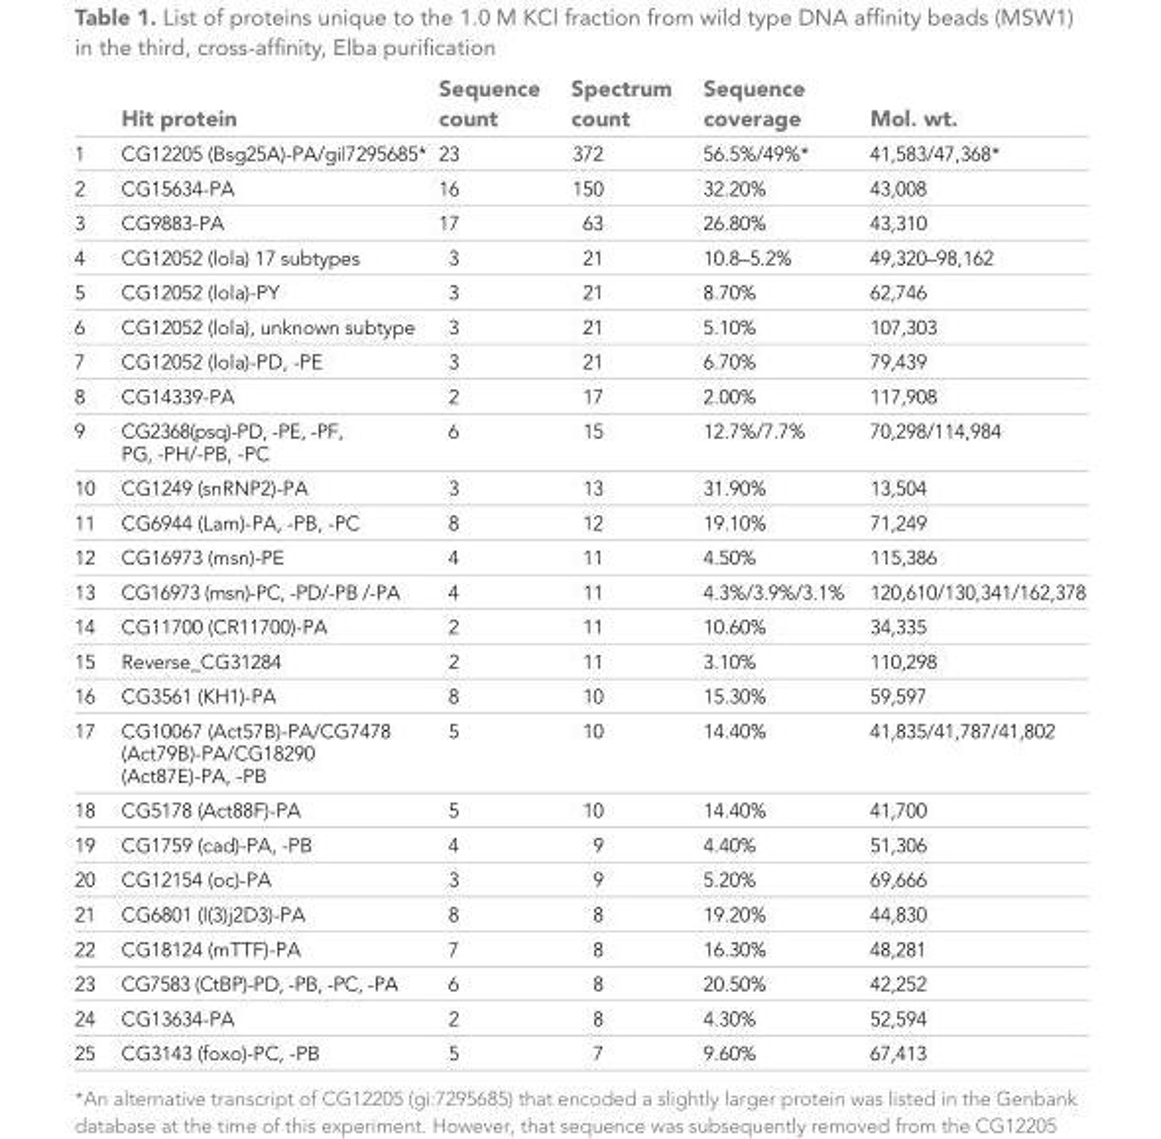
<table><thead><tr><td></td><td>Hit protein</td><td>Sequence count</td><td>Spectrum count</td><td>Sequence coverage</td><td>Mol. wt.</td></tr></thead><tbody><tr><td>1</td><td>CG12205 (Bsg25A)-PA/gi|7295685*</td><td>23</td><td>372</td><td>56.5%/49%*</td><td>41,583/47,368*</td></tr><tr><td>2</td><td>CG15634-PA</td><td>16</td><td>150</td><td>32.20%</td><td>43,008</td></tr><tr><td>3</td><td>CG9883-PA</td><td>17</td><td>63</td><td>26.80%</td><td>43,310</td></tr><tr><td>4</td><td>CG12052 (lola) 17 subtypes</td><td>3</td><td>21</td><td>10.8–5.2%</td><td>49,320–98,162</td></tr><tr><td>5</td><td>CG12052 (lola)-PY</td><td>3</td><td>21</td><td>8.70%</td><td>62,746</td></tr><tr><td>6</td><td>CG12052 (lola), unknown subtype</td><td>3</td><td>21</td><td>5.10%</td><td>107,303</td></tr><tr><td>7</td><td>CG12052 (lola)-PD, -PE</td><td>3</td><td>21</td><td>6.70%</td><td>79,439</td></tr><tr><td>8</td><td>CG14339-PA</td><td>2</td><td>17</td><td>2.00%</td><td>117,908</td></tr><tr><td>9</td><td>CG2368(psq)-PD, -PE, -PF, PG, -PH/-PB, -PC</td><td>6</td><td>15</td><td>12.7%/7.7%</td><td>70,298/114,984</td></tr><tr><td>10</td><td>CG1249 (snRNP2)-PA</td><td>3</td><td>13</td><td>31.90%</td><td>13,504</td></tr><tr><td>11</td><td>CG6944 (Lam)-PA, -PB, -PC</td><td>8</td><td>12</td><td>19.10%</td><td>71,249</td></tr><tr><td>12</td><td>CG16973 (msn)-PE</td><td>4</td><td>11</td><td>4.50%</td><td>115,386</td></tr><tr><td>13</td><td>CG16973 (msn)-PC, -PD/-PB /-PA</td><td>4</td><td>11</td><td>4.3%/3.9%/3.1%</td><td>120,610/130,341/162,378</td></tr><tr><td>14</td><td>CG11700 (CR11700)-PA</td><td>2</td><td>11</td><td>10.60%</td><td>34,335</td></tr><tr><td>15</td><td>Reverse_CG31284</td><td>2</td><td>11</td><td>3.10%</td><td>110,298</td></tr><tr><td>16</td><td>CG3561 (KH1)-PA</td><td>8</td><td>10</td><td>15.30%</td><td>59,597</td></tr><tr><td>17</td><td>CG10067 (Act57B)-PA/CG7478 (Act79B)-PA/CG18290 (Act87E)-PA, -PB</td><td>5</td><td>10</td><td>14.40%</td><td>41,835/41,787/41,802</td></tr><tr><td>18</td><td>CG5178 (Act88F)-PA</td><td>5</td><td>10</td><td>14.40%</td><td>41,700</td></tr><tr><td>19</td><td>CG1759 (cad)-PA, -PB</td><td>4</td><td>9</td><td>4.40%</td><td>51,306</td></tr><tr><td>20</td><td>CG12154 (oc)-PA</td><td>3</td><td>9</td><td>5.20%</td><td>69,666</td></tr><tr><td>21</td><td>CG6801 (l(3)j2D3)-PA</td><td>8</td><td>8</td><td>19.20%</td><td>44,830</td></tr><tr><td>22</td><td>CG18124 (mTTF)-PA</td><td>7</td><td>8</td><td>16.30%</td><td>48,281</td></tr><tr><td>23</td><td>CG7583 (CtBP)-PD, -PB, -PC, -PA</td><td>6</td><td>8</td><td>20.50%</td><td>42,252</td></tr><tr><td>24</td><td>CG13634-PA</td><td>2</td><td>8</td><td>4.30%</td><td>52,594</td></tr><tr><td>25</td><td>CG3143 (foxo)-PC, -PB</td><td>5</td><td>7</td><td>9.60%</td><td>67,413</td></tr></tbody></table>